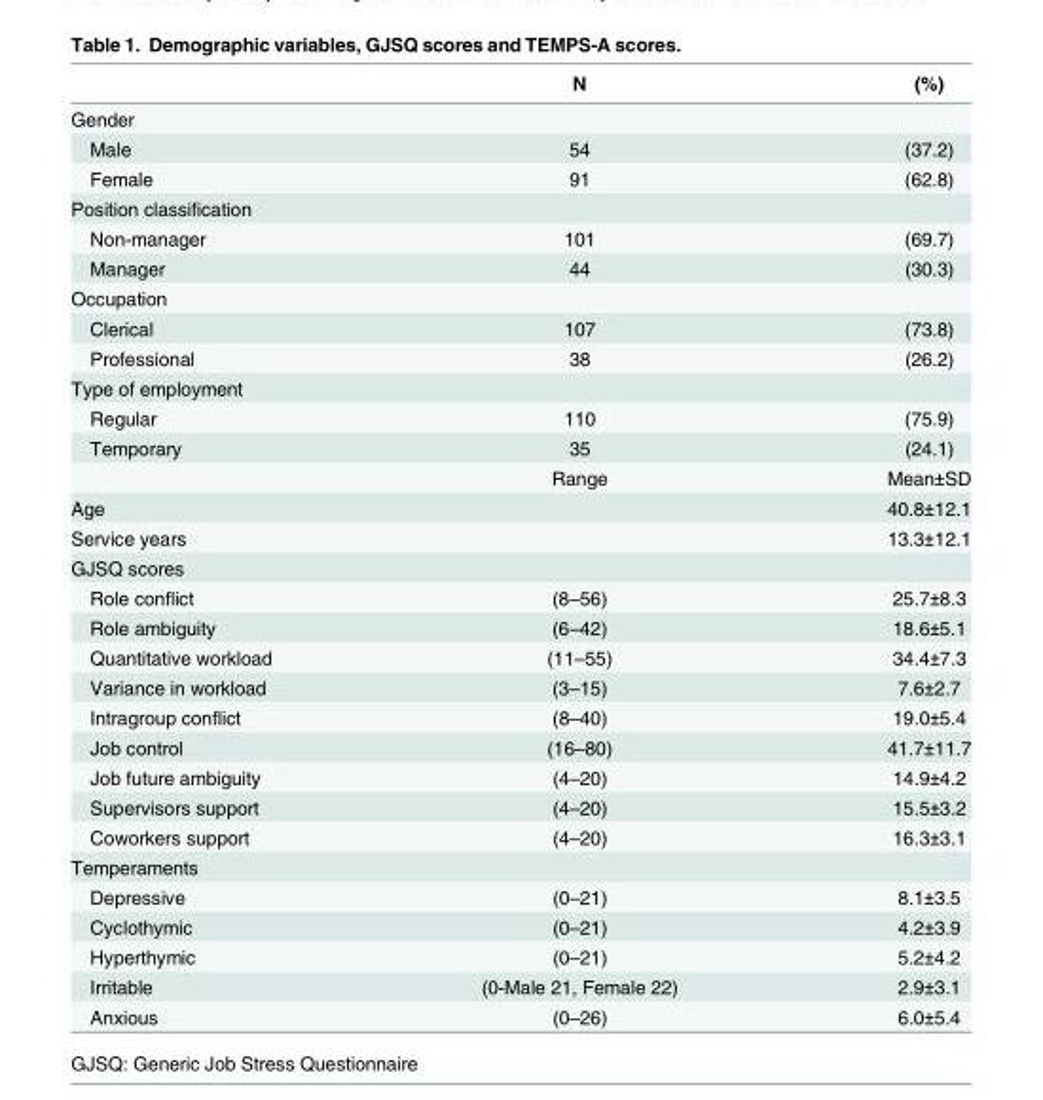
<table><thead><tr><td></td><td>N</td><td>(%)</td></tr></thead><tbody><tr><td colspan="3">Gender</td></tr><tr><td>Male</td><td>54</td><td>(37.2)</td></tr><tr><td>Female</td><td>91</td><td>(62.8)</td></tr><tr><td colspan="3">Position classification</td></tr><tr><td>Non-manager</td><td>101</td><td>(69.7)</td></tr><tr><td>Manager</td><td>44</td><td>(30.3)</td></tr><tr><td colspan="3">Occupation</td></tr><tr><td>Clerical</td><td>107</td><td>(73.8)</td></tr><tr><td>Professional</td><td>38</td><td>(26.2)</td></tr><tr><td colspan="3">Type of employment</td></tr><tr><td>Regular</td><td>110</td><td>(75.9)</td></tr><tr><td rowspan="2">Temporary</td><td>35</td><td>(24.1)</td></tr><tr><td>Range</td><td>Mean±SD</td></tr><tr><td>Age</td><td></td><td>40.8±12.1</td></tr><tr><td>Service years</td><td></td><td>13.3±12.1</td></tr><tr><td colspan="3">GJSQ scores</td></tr><tr><td>Role conflict</td><td>(8–56)</td><td>25.7±8.3</td></tr><tr><td>Role ambiguity</td><td>(6–42)</td><td>18.6±5.1</td></tr><tr><td>Quantitative workload</td><td>(11–55)</td><td>34.4±7.3</td></tr><tr><td>Variance in workload</td><td>(3–15)</td><td>7.6±2.7</td></tr><tr><td>Intragroup conflict</td><td>(8–40)</td><td>19.0±5.4</td></tr><tr><td>Job control</td><td>(16–80)</td><td>41.7±11.7</td></tr><tr><td>Job future ambiguity</td><td>(4–20)</td><td>14.9±4.2</td></tr><tr><td>Supervisors support</td><td>(4–20)</td><td>15.5±3.2</td></tr><tr><td>Coworkers support</td><td>(4–20)</td><td>16.3±3.1</td></tr><tr><td colspan="3">Temperaments</td></tr><tr><td>Depressive</td><td>(0–21)</td><td>8.1±3.5</td></tr><tr><td>Cyclothymic</td><td>(0–21)</td><td>4.2±3.9</td></tr><tr><td>Hyperthymic</td><td>(0–21)</td><td>5.2±4.2</td></tr><tr><td>Irritable</td><td>(0-Male 21, Female 22)</td><td>2.9±3.1</td></tr><tr><td>Anxious</td><td>(0–26)</td><td>6.0±5.4</td></tr></tbody></table>